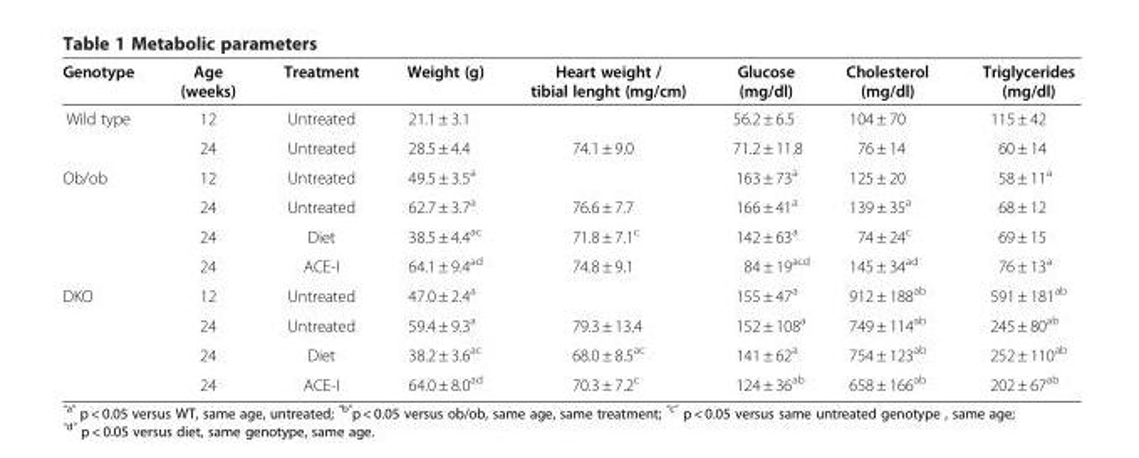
<table><thead><tr><td>Genotype</td><td>Age (weeks)</td><td>Treatment</td><td>Weight (g)</td><td>Heart weight / tibial lenght (mg/cm)</td><td>Glucose (mg/dl)</td><td>Cholesterol (mg/dl)</td><td>Triglycerides (mg/dl)</td></tr></thead><tbody><tr><td rowspan="2">Wild type</td><td>12</td><td>Untreated</td><td>21.1 ± 3.1</td><td></td><td>56.2 ± 6.5</td><td>104 ± 70</td><td>115 ± 42</td></tr><tr><td>24</td><td>Untreated</td><td>28.5 ± 4.4</td><td>74.1 ± 9.0</td><td>71.2 ± 11.8</td><td>76 ± 14</td><td>60 ± 14</td></tr><tr><td rowspan="4">Ob/ob</td><td>12</td><td>Untreated</td><td>49.5 ± 3.5<sup>a</sup></td><td></td><td>163 ± 73<sup>a</sup></td><td>125 ± 20</td><td>58 ± 11<sup>a</sup></td></tr><tr><td>24</td><td>Untreated</td><td>62.7 ± 3.7<sup>a</sup></td><td>76.6 ± 7.7</td><td>166 ± 41<sup>a</sup></td><td>139 ± 35<sup>a</sup></td><td>68 ± 12</td></tr><tr><td>24</td><td>Diet</td><td>38.5 ± 4.4<sup>ac</sup></td><td>71.8 ± 7.1<sup>c</sup></td><td>142 ± 63<sup>a</sup></td><td>74 ± 24<sup>c</sup></td><td>69 ± 15</td></tr><tr><td>24</td><td>ACE-I</td><td>64.1 ± 9.4<sup>ad</sup></td><td>74.8 ± 9.1</td><td>84 ± 19<sup>acd</sup></td><td>145 ± 34<sup>ad</sup></td><td>76 ± 13<sup>a</sup></td></tr><tr><td rowspan="4">DKO</td><td>12</td><td>Untreated</td><td>47.0 ± 2.4<sup>a</sup></td><td></td><td>155 ± 47<sup>a</sup></td><td>912 ± 188<sup>ab</sup></td><td>591 ± 181<sup>ab</sup></td></tr><tr><td>24</td><td>Untreated</td><td>59.4 ± 9.3<sup>a</sup></td><td>79.3 ± 13.4</td><td>152 ± 108<sup>a</sup></td><td>749 ± 114<sup>ab</sup></td><td>245 ± 80<sup>ab</sup></td></tr><tr><td>24</td><td>Diet</td><td>38.2 ± 3.6<sup>ac</sup></td><td>68.0 ± 8.5<sup>ac</sup></td><td>141 ± 62<sup>a</sup></td><td>754 ± 123<sup>ab</sup></td><td>252 ± 110<sup>ab</sup></td></tr><tr><td>24</td><td>ACE-I</td><td>64.0 ± 8.0<sup>ad</sup></td><td>70.3 ± 7.2<sup>c</sup></td><td>124 ± 36<sup>ab</sup></td><td>658 ± 166<sup>ab</sup></td><td>202 ± 67<sup>ab</sup></td></tr></tbody></table>